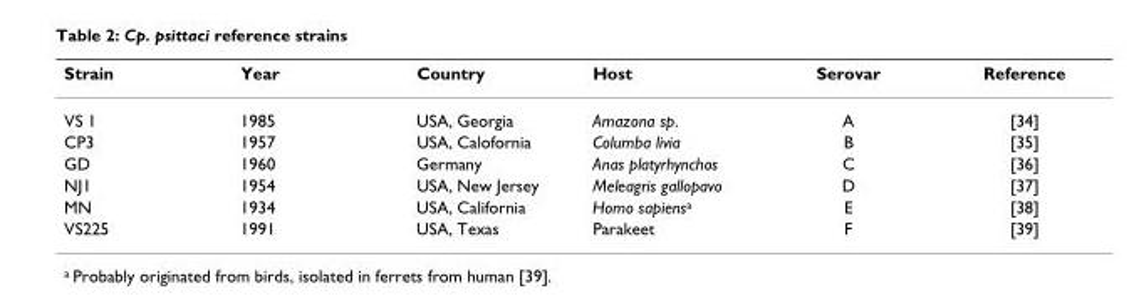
<table><thead><tr><td>Strain</td><td>Year</td><td>Country</td><td>Host</td><td>Serovar</td><td>Reference</td></tr></thead><tbody><tr><td>VS 1</td><td>1985</td><td>USA, Georgia</td><td>Amazona sp.</td><td>A</td><td>[34]</td></tr><tr><td>CP3</td><td>1957</td><td>USA, Calofornia</td><td>Columba livia</td><td>B</td><td>[35]</td></tr><tr><td>GD</td><td>1960</td><td>Germany</td><td>Anas platyrhynchos</td><td>C</td><td>[36]</td></tr><tr><td>NJ1</td><td>1954</td><td>USA, New Jersey</td><td>Meleagris gallopavo</td><td>D</td><td>[37]</td></tr><tr><td>MN</td><td>1934</td><td>USA, California</td><td>Homo sapiens<sup>a</sup></td><td>E</td><td>[38]</td></tr><tr><td>VS225</td><td>1991</td><td>USA, Texas</td><td>Parakeet</td><td>F</td><td>[39]</td></tr></tbody></table>